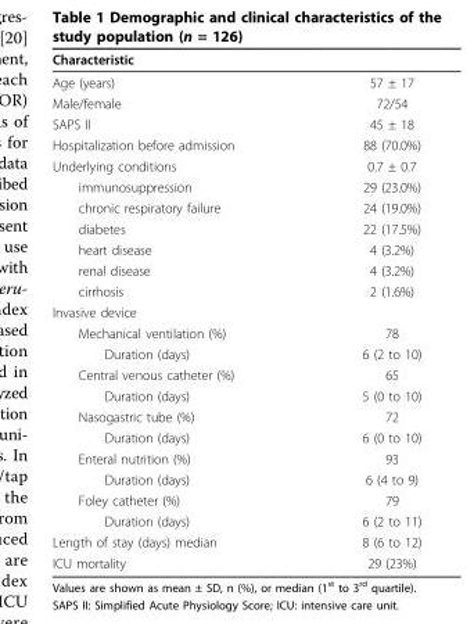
<table><thead><tr><td>Characteristic</td><td></td></tr></thead><tbody><tr><td>Age (years)</td><td>57 ± 17</td></tr><tr><td>Male/female</td><td>72/54</td></tr><tr><td>SAPS II</td><td>45 ± 18</td></tr><tr><td>Hospitalization before admission</td><td>88 (70.0%)</td></tr><tr><td>Underlying conditions</td><td>0.7 ± 0.7</td></tr><tr><td>immunosuppression</td><td>29 (23.0%)</td></tr><tr><td>chronic respiratory failure</td><td>24 (19.0%)</td></tr><tr><td>diabetes</td><td>22 (17.5%)</td></tr><tr><td>heart disease</td><td>4 (3.2%)</td></tr><tr><td>renal disease</td><td>4 (3.2%)</td></tr><tr><td>cirrhosis</td><td>2 (1.6%)</td></tr><tr><td colspan="2">Invasive device</td></tr><tr><td>Mechanical ventilation (%)</td><td>78</td></tr><tr><td>Duration (days)</td><td>6 (2 to 10)</td></tr><tr><td>Central venous catheter (%)</td><td>65</td></tr><tr><td>Duration (days)</td><td>5 (0 to 10)</td></tr><tr><td>Nasogastric tube (%)</td><td>72</td></tr><tr><td>Duration (days)</td><td>6 (0 to 10)</td></tr><tr><td>Enteral nutrition (%)</td><td>93</td></tr><tr><td>Duration (days)</td><td>6 (4 to 9)</td></tr><tr><td>Foley catheter (%)</td><td>79</td></tr><tr><td>Duration (days)</td><td>6 (2 to 11)</td></tr><tr><td>Length of stay (days) median</td><td>8 (6 to 12)</td></tr><tr><td>ICU mortality</td><td>29 (23%)</td></tr></tbody></table>